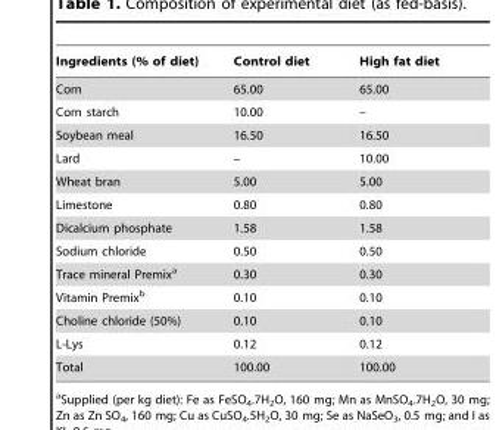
<table><thead><tr><td>Ingredients (% of diet)</td><td>Control diet</td><td>High fat diet</td></tr></thead><tbody><tr><td>Corn</td><td>65.00</td><td>65.00</td></tr><tr><td>Corn starch</td><td>10.00</td><td>–</td></tr><tr><td>Soybean meal</td><td>16.50</td><td>16.50</td></tr><tr><td>Lard</td><td>–</td><td>10.00</td></tr><tr><td>Wheat bran</td><td>5.00</td><td>5.00</td></tr><tr><td>Limestone</td><td>0.80</td><td>0.80</td></tr><tr><td>Dicalcium phosphate</td><td>1.58</td><td>1.58</td></tr><tr><td>Sodium chloride</td><td>0.50</td><td>0.50</td></tr><tr><td>Trace mineral Premix<sup>a</sup></td><td>0.30</td><td>0.30</td></tr><tr><td>Vitamin Premix<sup>b</sup></td><td>0.10</td><td>0.10</td></tr><tr><td>Choline chloride (50%)</td><td>0.10</td><td>0.10</td></tr><tr><td>L-Lys</td><td>0.12</td><td>0.12</td></tr><tr><td>Total</td><td>100.00</td><td>100.00</td></tr></tbody></table>